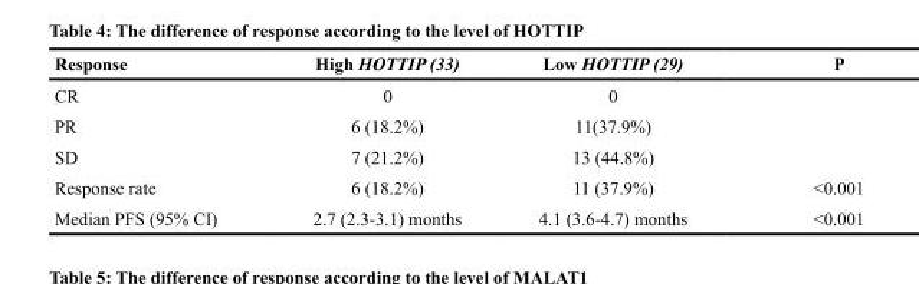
<table><thead><tr><td>Response</td><td>High HOTTIP (33)</td><td>Low HOTTIP (29)</td><td>P</td></tr></thead><tbody><tr><td>CR</td><td>0</td><td>0</td><td></td></tr><tr><td>PR</td><td>6 (18.2%)</td><td>11(37.9%)</td><td></td></tr><tr><td>SD</td><td>7 (21.2%)</td><td>13 (44.8%)</td><td></td></tr><tr><td>Response rate</td><td>6 (18.2%)</td><td>11 (37.9%)</td><td>&lt;0.001</td></tr><tr><td>Median PFS (95% CI)</td><td>2.7 (2.3-3.1) months</td><td>4.1 (3.6-4.7) months</td><td>&lt;0.001</td></tr></tbody></table>